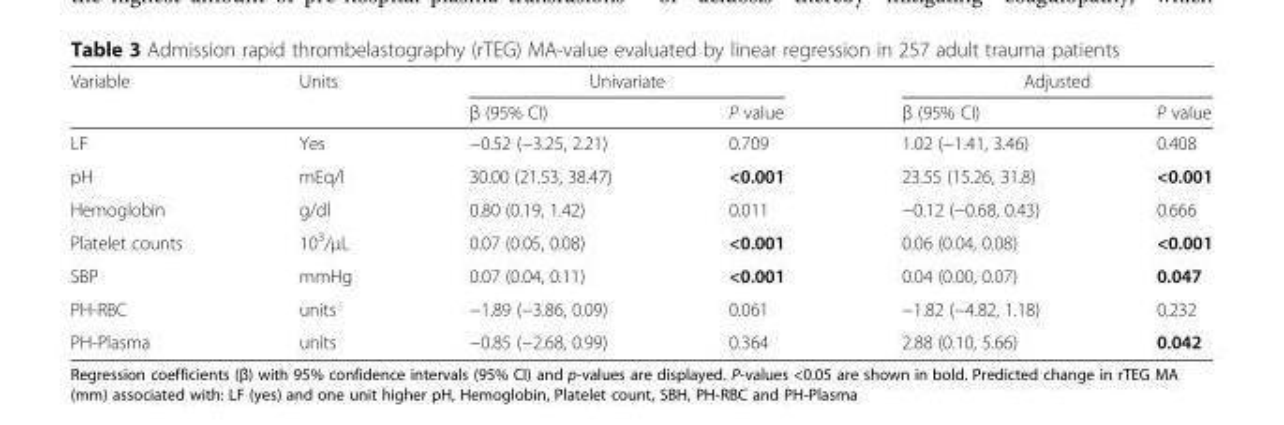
<table><thead><tr><td rowspan="2">Variable</td><td rowspan="2">Units</td><td colspan="2">Univariate</td><td colspan="2">Adjusted</td></tr><tr><td>β (95% CI)</td><td>P value</td><td>β (95% CI)</td><td>P value</td></tr></thead><tbody><tr><td>LF</td><td>Yes</td><td>−0.52 (−3.25, 2.21)</td><td>0.709</td><td>1.02 (−1.41, 3.46)</td><td>0.408</td></tr><tr><td>pH</td><td>mEq/l</td><td>30.00 (21.53, 38.47)</td><td>&lt;0.001</td><td>23.55 (15.26, 31.8)</td><td>&lt;0.001</td></tr><tr><td>Hemoglobin</td><td>g/dl</td><td>0.80 (0.19, 1.42)</td><td>0.011</td><td>−0.12 (−0.68, 0.43)</td><td>0.666</td></tr><tr><td>Platelet counts</td><td>10<sup>3</sup>/μL</td><td>0.07 (0.05, 0.08)</td><td>&lt;0.001</td><td>0.06 (0.04, 0.08)</td><td>&lt;0.001</td></tr><tr><td>SBP</td><td>mmHg</td><td>0.07 (0.04, 0.11)</td><td>&lt;0.001</td><td>0.04 (0.00, 0.07)</td><td>0.047</td></tr><tr><td>PH-RBC</td><td>units</td><td>−1.89 (−3.86, 0.09)</td><td>0.061</td><td>−1.82 (−4.82, 1.18)</td><td>0.232</td></tr><tr><td>PH-Plasma</td><td>units</td><td>−0.85 (−2.68, 0.99)</td><td>0.364</td><td>2.88 (0.10, 5.66)</td><td>0.042</td></tr></tbody></table>